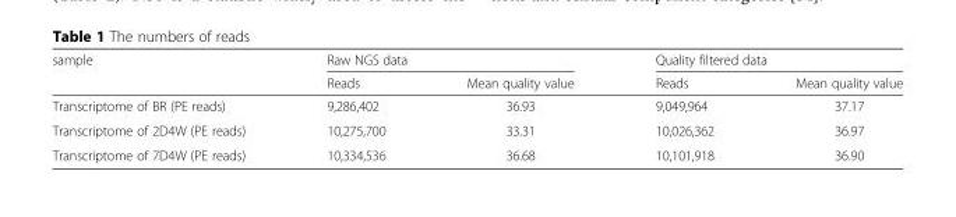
<table><thead><tr><td rowspan="2">sample</td><td colspan="2">Raw NGS data</td><td colspan="2">Quality filtered data</td></tr><tr><td>Reads</td><td>Mean quality value</td><td>Reads</td><td>Mean quality value</td></tr></thead><tbody><tr><td>Transcriptome of BR (PE reads)</td><td>9,286,402</td><td>36.93</td><td>9,049,964</td><td>37.17</td></tr><tr><td>Transcriptome of 2D4W (PE reads)</td><td>10,275,700</td><td>33.31</td><td>10,026,362</td><td>36.97</td></tr><tr><td>Transcriptome of 7D4W (PE reads)</td><td>10,334,536</td><td>36.68</td><td>10,101,918</td><td>36.90</td></tr></tbody></table>